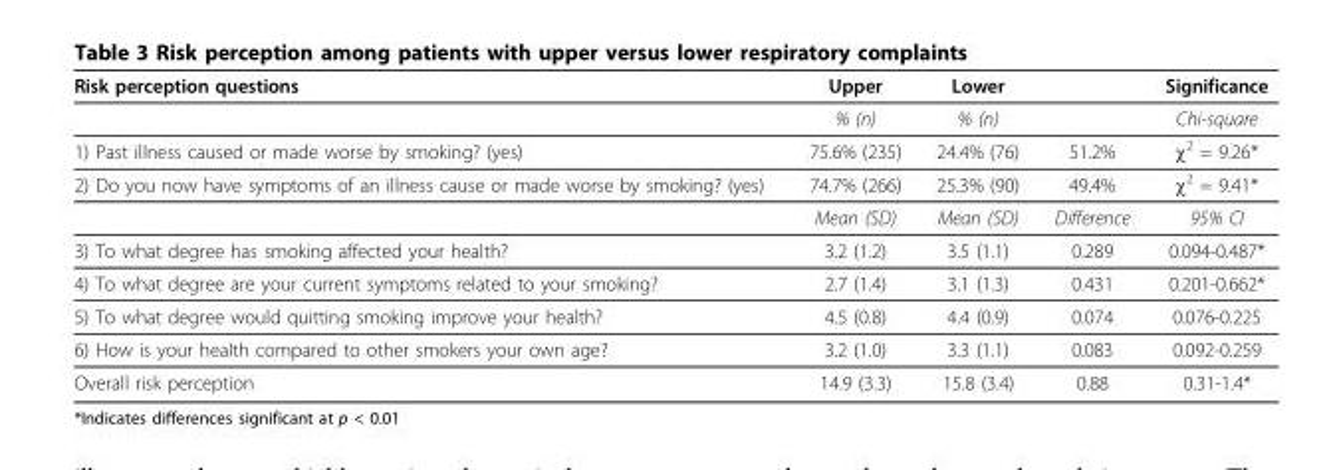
<table><thead><tr><td>Risk perception questions</td><td>Upper</td><td>Lower</td><td></td><td>Significance</td></tr></thead><tbody><tr><td></td><td>% (n)</td><td>% (n)</td><td></td><td>Chi-square</td></tr><tr><td>1) Past illness caused or made worse by smoking? (yes)</td><td>75.6% (235)</td><td>24.4% (76)</td><td>51.2%</td><td>χ<sup>2</sup> = 9.26*</td></tr><tr><td rowspan="2">2) Do you now have symptoms of an illness cause or made worse by smoking? (yes)</td><td>74.7% (266)</td><td>25.3% (90)</td><td>49.4%</td><td>χ<sup>2</sup> = 9.41*</td></tr><tr><td>Mean (SD)</td><td>Mean (SD)</td><td>Difference</td><td>95% CI</td></tr><tr><td>3) To what degree has smoking affected your health?</td><td>3.2 (1.2)</td><td>3.5 (1.1)</td><td>0.289</td><td>0.094-0.487*</td></tr><tr><td>4) To what degree are your current symptoms related to your smoking?</td><td>2.7 (1.4)</td><td>3.1 (1.3)</td><td>0.431</td><td>0.201-0.662*</td></tr><tr><td>5) To what degree would quitting smoking improve your health?</td><td>4.5 (0.8)</td><td>4.4 (0.9)</td><td>0.074</td><td>0.076-0.225</td></tr><tr><td>6) How is your health compared to other smokers your own age?</td><td>3.2 (1.0)</td><td>3.3 (1.1)</td><td>0.083</td><td>0.092-0.259</td></tr><tr><td>Overall risk perception</td><td>14.9 (3.3)</td><td>15.8 (3.4)</td><td>0.88</td><td>0.31-1.4*</td></tr></tbody></table>